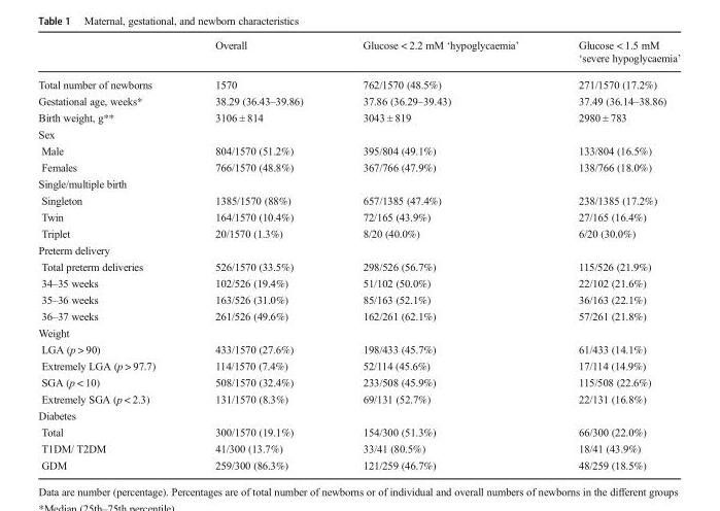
<table><thead><tr><td></td><td>Overall</td><td>Glucose &lt; 2.2 mM ‘hypoglycaemia’</td><td>Glucose &lt; 1.5 mM ‘severe hypoglycaemia’</td></tr></thead><tbody><tr><td>Total number of newborns</td><td>1570</td><td>762/1570 (48.5%)</td><td>271/1570 (17.2%)</td></tr><tr><td>Gestational age, weeks*</td><td>38.29 (36.43–39.86)</td><td>37.86 (36.29–39.43)</td><td>37.49 (36.14–38.86)</td></tr><tr><td>Birth weight, g**</td><td>3106 ± 814</td><td>3043 ± 819</td><td>2980 ± 783</td></tr><tr><td colspan="4">Sex</td></tr><tr><td>Male</td><td>804/1570 (51.2%)</td><td>395/804 (49.1%)</td><td>133/804 (16.5%)</td></tr><tr><td>Females</td><td>766/1570 (48.8%)</td><td>367/766 (47.9%)</td><td>138/766 (18.0%)</td></tr><tr><td colspan="4">Single/multiple birth</td></tr><tr><td>Singleton</td><td>1385/1570 (88%)</td><td>657/1385 (47.4%)</td><td>238/1385 (17.2%)</td></tr><tr><td>Twin</td><td>164/1570 (10.4%)</td><td>72/165 (43.9%)</td><td>27/165 (16.4%)</td></tr><tr><td>Triplet</td><td>20/1570 (1.3%)</td><td>8/20 (40.0%)</td><td>6/20 (30.0%)</td></tr><tr><td colspan="4">Preterm delivery</td></tr><tr><td>Total preterm deliveries</td><td>526/1570 (33.5%)</td><td>298/526 (56.7%)</td><td>115/526 (21.9%)</td></tr><tr><td>34–35 weeks</td><td>102/526 (19.4%)</td><td>51/102 (50.0%)</td><td>22/102 (21.6%)</td></tr><tr><td>35–36 weeks</td><td>163/526 (31.0%)</td><td>85/163 (52.1%)</td><td>36/163 (22.1%)</td></tr><tr><td>36–37 weeks</td><td>261/526 (49.6%)</td><td>162/261 (62.1%)</td><td>57/261 (21.8%)</td></tr><tr><td colspan="4">Weight</td></tr><tr><td>LGA (p &gt; 90)</td><td>433/1570 (27.6%)</td><td>198/433 (45.7%)</td><td>61/433 (14.1%)</td></tr><tr><td>Extremely LGA (p &gt; 97.7)</td><td>114/1570 (7.4%)</td><td>52/114 (45.6%)</td><td>17/114 (14.9%)</td></tr><tr><td>SGA (p &lt; 10)</td><td>508/1570 (32.4%)</td><td>233/508 (45.9%)</td><td>115/508 (22.6%)</td></tr><tr><td>Extremely SGA (p &lt; 2.3)</td><td>131/1570 (8.3%)</td><td>69/131 (52.7%)</td><td>22/131 (16.8%)</td></tr><tr><td colspan="4">Diabetes</td></tr><tr><td>Total</td><td>300/1570 (19.1%)</td><td>154/300 (51.3%)</td><td>66/300 (22.0%)</td></tr><tr><td>T1DM/ T2DM</td><td>41/300 (13.7%)</td><td>33/41 (80.5%)</td><td>18/41 (43.9%)</td></tr><tr><td>GDM</td><td>259/300 (86.3%)</td><td>121/259 (46.7%)</td><td>48/259 (18.5%)</td></tr></tbody></table>